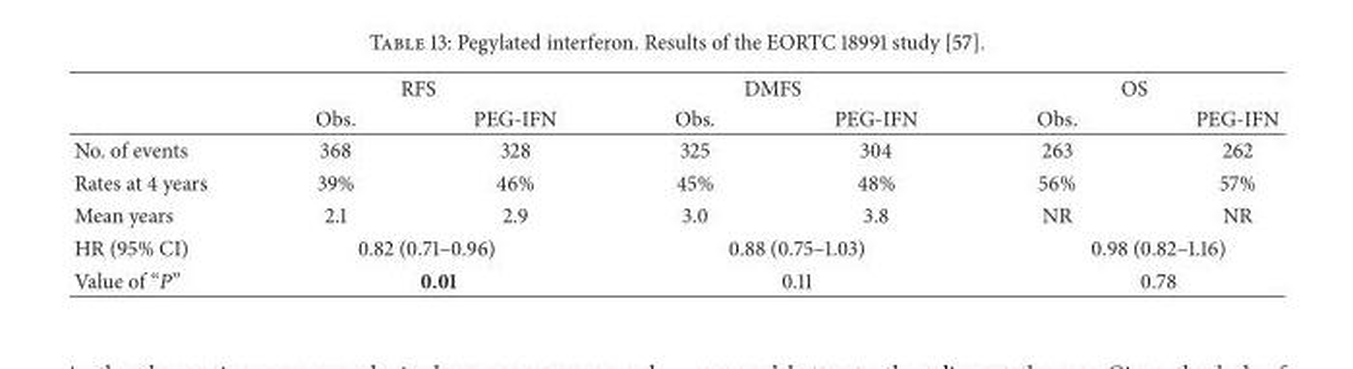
<table><thead><tr><td rowspan="2"></td><td colspan="2">RFS</td><td colspan="2">DMFS</td><td colspan="2">OS</td></tr><tr><td>Obs.</td><td>PEG-IFN</td><td>Obs.</td><td>PEG-IFN</td><td>Obs.</td><td>PEG-IFN</td></tr></thead><tbody><tr><td>No. of events</td><td>368</td><td>328</td><td>325</td><td>304</td><td>263</td><td>262</td></tr><tr><td>Rates at 4 years</td><td>39%</td><td>46%</td><td>45%</td><td>48%</td><td>56%</td><td>57%</td></tr><tr><td>Mean years</td><td>2.1</td><td>2.9</td><td>3.0</td><td>3.8</td><td>NR</td><td>NR</td></tr><tr><td>HR (95% CI)</td><td colspan="2">0.82 (0.71–0.96)</td><td colspan="2">0.88 (0.75–1.03)</td><td colspan="2">0.98 (0.82–1.16)</td></tr><tr><td>Value of “P”</td><td colspan="2">0.01</td><td colspan="2">0.11</td><td colspan="2">0.78</td></tr></tbody></table>